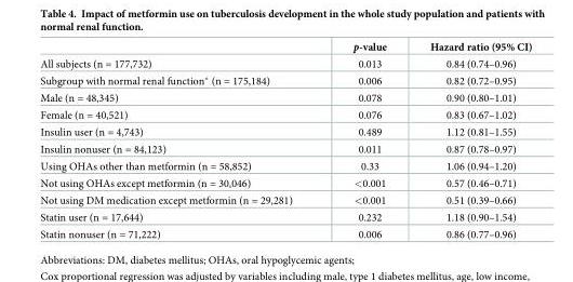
<table><thead><tr><td></td><td>p-value</td><td>Hazard ratio (95% CI)</td></tr></thead><tbody><tr><td>All subjects (n = 177,732)</td><td>0.013</td><td>0.84 (0.74–0.96)</td></tr><tr><td>Subgroup with normal renal function* (n = 175,184)</td><td>0.006</td><td>0.82 (0.72–0.95)</td></tr><tr><td>Male (n = 48,345)</td><td>0.078</td><td>0.90 (0.80–1.01)</td></tr><tr><td>Female (n = 40,521)</td><td>0.076</td><td>0.83 (0.67–1.02)</td></tr><tr><td>Insulin user (n = 4,743)</td><td>0.489</td><td>1.12 (0.81–1.55)</td></tr><tr><td>Insulin nonuser (n = 84,123)</td><td>0.011</td><td>0.87 (0.78–0.97)</td></tr><tr><td>Using OHAs other than metformin (n = 58,852)</td><td>0.33</td><td>1.06 (0.94–1.20)</td></tr><tr><td>Not using OHAs except metformin (n = 30,046)</td><td>&lt;0.001</td><td>0.57 (0.46–0.71)</td></tr><tr><td>Not using DM medication except metformin (n = 29,281)</td><td>&lt;0.001</td><td>0.51 (0.39–0.66)</td></tr><tr><td>Statin user (n = 17,644)</td><td>0.232</td><td>1.18 (0.90–1.54)</td></tr><tr><td>Statin nonuser (n = 71,222)</td><td>0.006</td><td>0.86 (0.77–0.96)</td></tr></tbody></table>